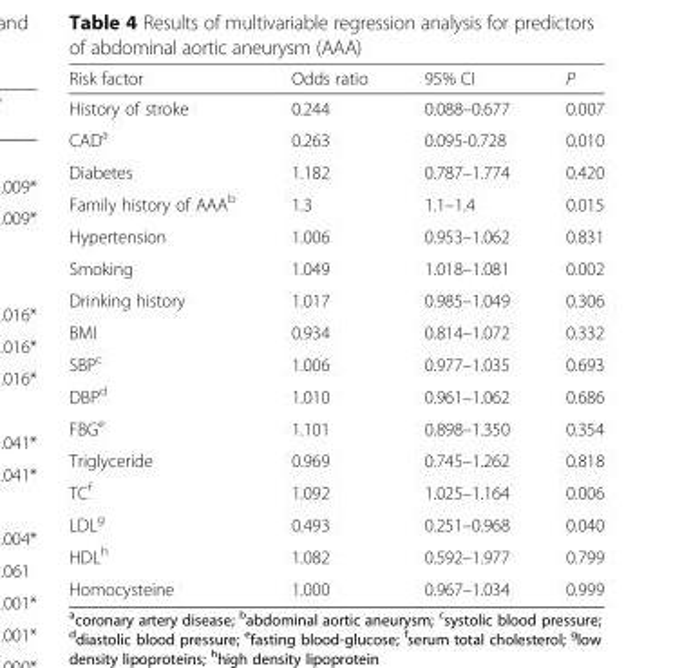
<table><thead><tr><td>Risk factor</td><td>Odds ratio</td><td>95% CI</td><td>P</td></tr></thead><tbody><tr><td>History of stroke</td><td>0.244</td><td>0.088–0.677</td><td>0.007</td></tr><tr><td>CAD<sup>a</sup></td><td>0.263</td><td>0.095-0.728</td><td>0.010</td></tr><tr><td>Diabetes</td><td>1.182</td><td>0.787–1.774</td><td>0.420</td></tr><tr><td>Family history of AAA<sup>b</sup></td><td>1.3</td><td>1.1–1.4</td><td>0.015</td></tr><tr><td>Hypertension</td><td>1.006</td><td>0.953–1.062</td><td>0.831</td></tr><tr><td>Smoking</td><td>1.049</td><td>1.018–1.081</td><td>0.002</td></tr><tr><td>Drinking history</td><td>1.017</td><td>0.985–1.049</td><td>0.306</td></tr><tr><td>BMI</td><td>0.934</td><td>0.814–1.072</td><td>0.332</td></tr><tr><td>SBP<sup>c</sup></td><td>1.006</td><td>0.977–1.035</td><td>0.693</td></tr><tr><td>DBP<sup>d</sup></td><td>1.010</td><td>0.961–1.062</td><td>0.686</td></tr><tr><td>FBG<sup>e</sup></td><td>1.101</td><td>0.898–1.350</td><td>0.354</td></tr><tr><td>Triglyceride</td><td>0.969</td><td>0.745–1.262</td><td>0.818</td></tr><tr><td>TC<sup>f</sup></td><td>1.092</td><td>1.025–1.164</td><td>0.006</td></tr><tr><td>LDL<sup>g</sup></td><td>0.493</td><td>0.251–0.968</td><td>0.040</td></tr><tr><td>HDL<sup>h</sup></td><td>1.082</td><td>0.592–1.977</td><td>0.799</td></tr><tr><td>Homocysteine</td><td>1.000</td><td>0.967–1.034</td><td>0.999</td></tr></tbody></table>